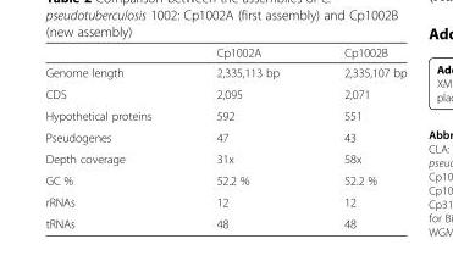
<table><thead><tr><td></td><td>Cp1002A</td><td>Cp1002B</td></tr></thead><tbody><tr><td>Genome length</td><td>2,335,113 bp</td><td>2,335,107 bp</td></tr><tr><td>CDS</td><td>2,095</td><td>2,071</td></tr><tr><td>Hypothetical proteins</td><td>592</td><td>551</td></tr><tr><td>Pseudogenes</td><td>47</td><td>43</td></tr><tr><td>Depth coverage</td><td>31x</td><td>58x</td></tr><tr><td>GC %</td><td>52.2 %</td><td>52.2 %</td></tr><tr><td>rRNAs</td><td>12</td><td>12</td></tr><tr><td>tRNAs</td><td>48</td><td>48</td></tr></tbody></table>